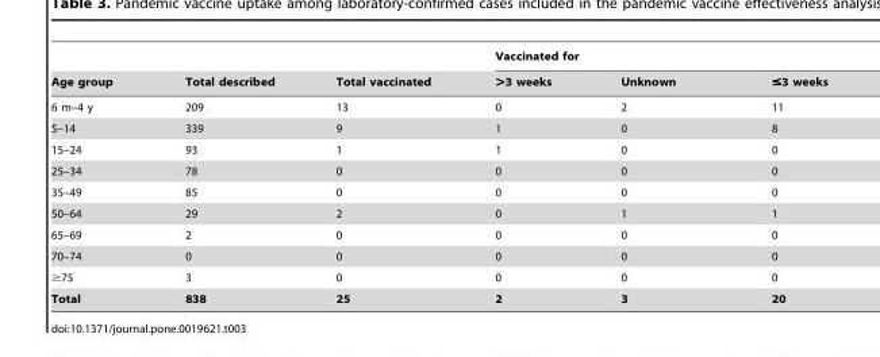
<table><thead><tr><td rowspan="2">Age group</td><td rowspan="2">Total described</td><td rowspan="2">Total vaccinated</td><td colspan="3">Vaccinated for</td></tr><tr><td>&gt;3 weeks</td><td>Unknown</td><td>≤3 weeks</td></tr></thead><tbody><tr><td>6 m–4 y</td><td>209</td><td>13</td><td>0</td><td>2</td><td>11</td></tr><tr><td>5–14</td><td>339</td><td>9</td><td>1</td><td>0</td><td>8</td></tr><tr><td>15–24</td><td>93</td><td>1</td><td>1</td><td>0</td><td>0</td></tr><tr><td>25–34</td><td>78</td><td>0</td><td>0</td><td>0</td><td>0</td></tr><tr><td>35–49</td><td>85</td><td>0</td><td>0</td><td>0</td><td>0</td></tr><tr><td>50–64</td><td>29</td><td>2</td><td>0</td><td>1</td><td>1</td></tr><tr><td>65–69</td><td>2</td><td>0</td><td>0</td><td>0</td><td>0</td></tr><tr><td>70–74</td><td>0</td><td>0</td><td>0</td><td>0</td><td>0</td></tr><tr><td>≥75</td><td>3</td><td>0</td><td>0</td><td>0</td><td>0</td></tr><tr><td>Total</td><td>838</td><td>25</td><td>2</td><td>3</td><td>20</td></tr></tbody></table>